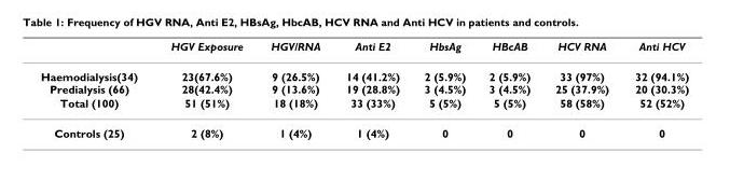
<table><thead><tr><td></td><td>HGV Exposure</td><td>HGV/RNA</td><td>Anti E2</td><td>HbsAg</td><td>HBcAB</td><td>HCV RNA</td><td>Anti HCV</td></tr></thead><tbody><tr><td>Haemodialysis(34) Predialysis (66)</td><td>23(67.6%) 28(42.4%)</td><td>9 (26.5%) 9 (13.6%)</td><td>14 (41.2%) 19 (28.8%)</td><td>2 (5.9%) 3 (4.5%)</td><td>2 (5.9%) 3 (4.5%)</td><td>33 (97%) 25 (37.9%)</td><td>32 (94.1%) 20 (30.3%)</td></tr><tr><td>Total (100)</td><td>51 (51%)</td><td>18 (18%)</td><td>33 (33%)</td><td>5 (5%)</td><td>5 (5%)</td><td>58 (58%)</td><td>52 (52%)</td></tr><tr><td>Controls (25)</td><td>2 (8%)</td><td>1 (4%)</td><td>1 (4%)</td><td>0</td><td>0</td><td>0</td><td>0</td></tr></tbody></table>